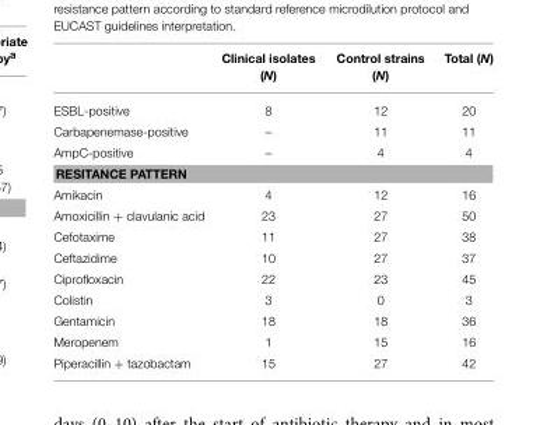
<table><thead><tr><td></td><td>Clinical isolates (N)</td><td>Control strains (N)</td><td>Total (N)</td></tr></thead><tbody><tr><td>ESBL-positive</td><td>8</td><td>12</td><td>20</td></tr><tr><td>Carbapenemase-positive</td><td>–</td><td>11</td><td>11</td></tr><tr><td>AmpC-positive</td><td>–</td><td>4</td><td>4</td></tr><tr><td colspan="4">RESITANCE PATTERN</td></tr><tr><td>Amikacin</td><td>4</td><td>12</td><td>16</td></tr><tr><td>Amoxicillin + clavulanic acid</td><td>23</td><td>27</td><td>50</td></tr><tr><td>Cefotaxime</td><td>11</td><td>27</td><td>38</td></tr><tr><td>Ceftazidime</td><td>10</td><td>27</td><td>37</td></tr><tr><td>Ciprofloxacin</td><td>22</td><td>23</td><td>45</td></tr><tr><td>Colistin</td><td>3</td><td>0</td><td>3</td></tr><tr><td>Gentamicin</td><td>18</td><td>18</td><td>36</td></tr><tr><td>Meropenem</td><td>1</td><td>15</td><td>16</td></tr><tr><td>Piperacillin + tazobactam</td><td>15</td><td>27</td><td>42</td></tr></tbody></table>